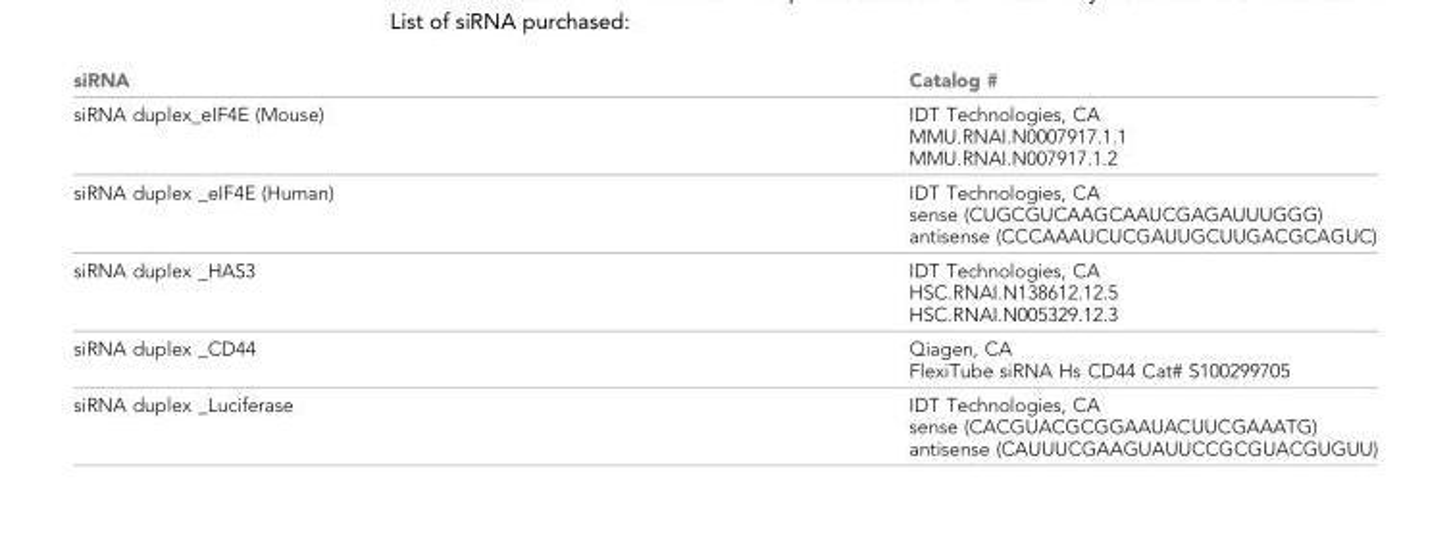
<table><thead><tr><td>siRNA</td><td>Catalog #</td></tr></thead><tbody><tr><td>siRNA duplex_eIF4E (Mouse)</td><td>IDT Technologies, CA MMU.RNAI.N0007917.1.1 MMU.RNAI.N007917.1.2</td></tr><tr><td>siRNA duplex _eIF4E (Human)</td><td>IDT Technologies, CA sense (CUGCGUCAAGCAAUCGAGAUUUGGG) antisense (CCCAAAUCUCGAUUGCUUGACGCAGUC)</td></tr><tr><td>siRNA duplex _HAS3</td><td>IDT Technologies, CA HSC.RNAI.N138612.12.5 HSC.RNAI.N005329.12.3</td></tr><tr><td>siRNA duplex _CD44</td><td>Qiagen, CA FlexiTube siRNA Hs CD44 Cat# S100299705</td></tr><tr><td>siRNA duplex _Luciferase</td><td>IDT Technologies, CA sense (CACGUACGCGGAAUACUUCGAAATG) antisense (CAUUUCGAAGUAUUCCGCGUACGUGUU)</td></tr></tbody></table>